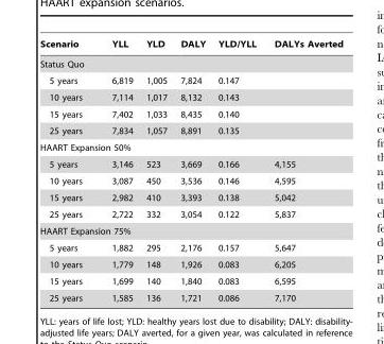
<table><thead><tr><td>Scenario</td><td>YLL</td><td>YLD</td><td>DALY</td><td>YLD/YLL</td><td>DALYs Averted</td></tr></thead><tbody><tr><td colspan="6">Status Quo</td></tr><tr><td>5 years</td><td>6,819</td><td>1,005</td><td>7,824</td><td>0.147</td><td></td></tr><tr><td>10 years</td><td>7,114</td><td>1,017</td><td>8,132</td><td>0.143</td><td></td></tr><tr><td>15 years</td><td>7,402</td><td>1,033</td><td>8,435</td><td>0.140</td><td></td></tr><tr><td>25 years</td><td>7,834</td><td>1,057</td><td>8,891</td><td>0.135</td><td></td></tr><tr><td colspan="6">HAART Expansion 50%</td></tr><tr><td>5 years</td><td>3,146</td><td>523</td><td>3,669</td><td>0.166</td><td>4,155</td></tr><tr><td>10 years</td><td>3,087</td><td>450</td><td>3,536</td><td>0.146</td><td>4,595</td></tr><tr><td>15 years</td><td>2,982</td><td>410</td><td>3,393</td><td>0.138</td><td>5,042</td></tr><tr><td>25 years</td><td>2,722</td><td>332</td><td>3,054</td><td>0.122</td><td>5,837</td></tr><tr><td colspan="6">HAART Expansion 75%</td></tr><tr><td>5 years</td><td>1,882</td><td>295</td><td>2,176</td><td>0.157</td><td>5,647</td></tr><tr><td>10 years</td><td>1,779</td><td>148</td><td>1,926</td><td>0.083</td><td>6,205</td></tr><tr><td>15 years</td><td>1,699</td><td>140</td><td>1,840</td><td>0.083</td><td>6,595</td></tr><tr><td>25 years</td><td>1,585</td><td>136</td><td>1,721</td><td>0.086</td><td>7,170</td></tr></tbody></table>